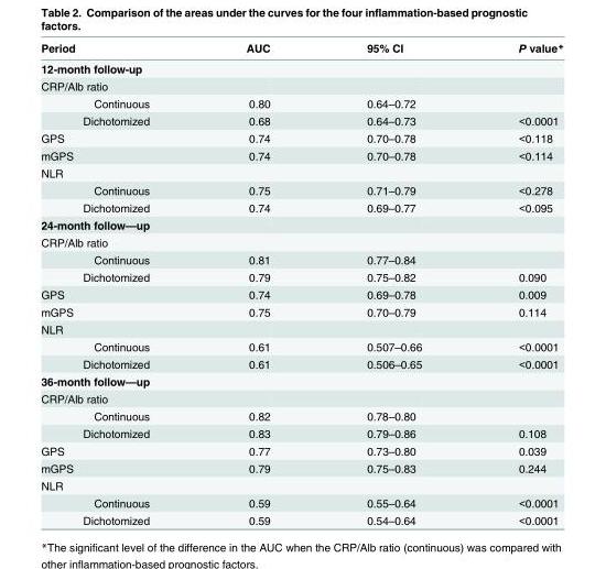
<table><thead><tr><td>Period</td><td>AUC</td><td>95% CI</td><td>P value*</td></tr></thead><tbody><tr><td colspan="4">12-month follow-up</td></tr><tr><td colspan="4">CRP/Alb ratio</td></tr><tr><td>Continuous</td><td>0.80</td><td>0.64–0.72</td><td></td></tr><tr><td>Dichotomized</td><td>0.68</td><td>0.64–0.73</td><td>&lt;0.0001</td></tr><tr><td>GPS</td><td>0.74</td><td>0.70–0.78</td><td>&lt;0.118</td></tr><tr><td>mGPS</td><td>0.74</td><td>0.70–0.78</td><td>&lt;0.114</td></tr><tr><td colspan="4">NLR</td></tr><tr><td>Continuous</td><td>0.75</td><td>0.71–0.79</td><td>&lt;0.278</td></tr><tr><td>Dichotomized</td><td>0.74</td><td>0.69–0.77</td><td>&lt;0.095</td></tr><tr><td colspan="4">24-month follow—up</td></tr><tr><td colspan="4">CRP/Alb ratio</td></tr><tr><td>Continuous</td><td>0.81</td><td>0.77–0.84</td><td></td></tr><tr><td>Dichotomized</td><td>0.79</td><td>0.75–0.82</td><td>0.090</td></tr><tr><td>GPS</td><td>0.74</td><td>0.69–0.78</td><td>0.009</td></tr><tr><td>mGPS</td><td>0.75</td><td>0.70–0.79</td><td>0.114</td></tr><tr><td colspan="4">NLR</td></tr><tr><td>Continuous</td><td>0.61</td><td>0.507–0.66</td><td>&lt;0.0001</td></tr><tr><td>Dichotomized</td><td>0.61</td><td>0.506–0.65</td><td>&lt;0.0001</td></tr><tr><td colspan="4">36-month follow—up</td></tr><tr><td colspan="4">CRP/Alb ratio</td></tr><tr><td>Continuous</td><td>0.82</td><td>0.78–0.80</td><td></td></tr><tr><td>Dichotomized</td><td>0.83</td><td>0.79–0.86</td><td>0.108</td></tr><tr><td>GPS</td><td>0.77</td><td>0.73–0.80</td><td>0.039</td></tr><tr><td>mGPS</td><td>0.79</td><td>0.75–0.83</td><td>0.244</td></tr><tr><td colspan="4">NLR</td></tr><tr><td>Continuous</td><td>0.59</td><td>0.55–0.64</td><td>&lt;0.0001</td></tr><tr><td>Dichotomized</td><td>0.59</td><td>0.54–0.64</td><td>&lt;0.0001</td></tr></tbody></table>